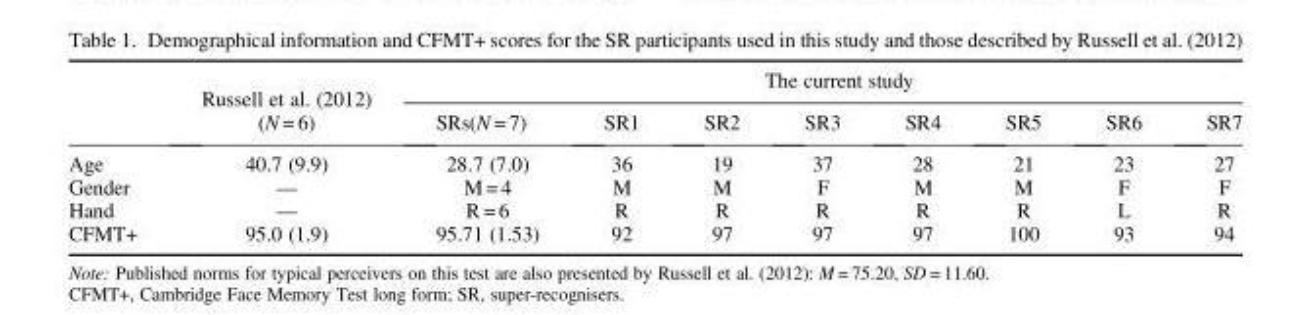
<table><thead><tr><td rowspan="2"></td><td rowspan="2">Russell et al. (2012) (N = 6)</td><td colspan="8">The current study</td></tr><tr><td>SRs(N = 7)</td><td>SR1</td><td>SR2</td><td>SR3</td><td>SR4</td><td>SR5</td><td>SR6</td><td>SR7</td></tr></thead><tbody><tr><td>Age</td><td>40.7 (9.9)</td><td>28.7 (7.0)</td><td>36</td><td>19</td><td>37</td><td>28</td><td>21</td><td>23</td><td>27</td></tr><tr><td>Gender</td><td>—</td><td>M = 4</td><td>M</td><td>M</td><td>F</td><td>M</td><td>M</td><td>F</td><td>F</td></tr><tr><td>Hand</td><td>—</td><td>R = 6</td><td>R</td><td>R</td><td>R</td><td>R</td><td>R</td><td>L</td><td>R</td></tr><tr><td>CFMT+</td><td>95.0 (1.9)</td><td>95.71 (1.53)</td><td>92</td><td>97</td><td>97</td><td>97</td><td>100</td><td>93</td><td>94</td></tr></tbody></table>